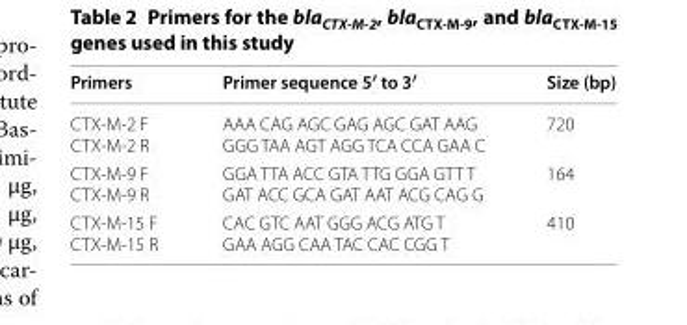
<table><thead><tr><td>Primers</td><td>Primer sequence 5′ to 3′</td><td>Size (bp)</td></tr></thead><tbody><tr><td>CTX-M-2 F CTX-M-2 R</td><td>AAA CAG AGC GAG AGC GAT AAG GGG TAA AGT AGG TCA CCA GAA C</td><td>720</td></tr><tr><td>CTX-M-9 F CTX-M-9 R</td><td>GGA TTA ACC GTA TTG GGA GTT T GAT ACC GCA GAT AAT ACG CAG G</td><td>164</td></tr><tr><td>CTX-M-15 F CTX-M-15 R</td><td>CAC GTC AAT GGG ACG ATG T GAA AGG CAA TAC CAC CGG T</td><td>410</td></tr></tbody></table>